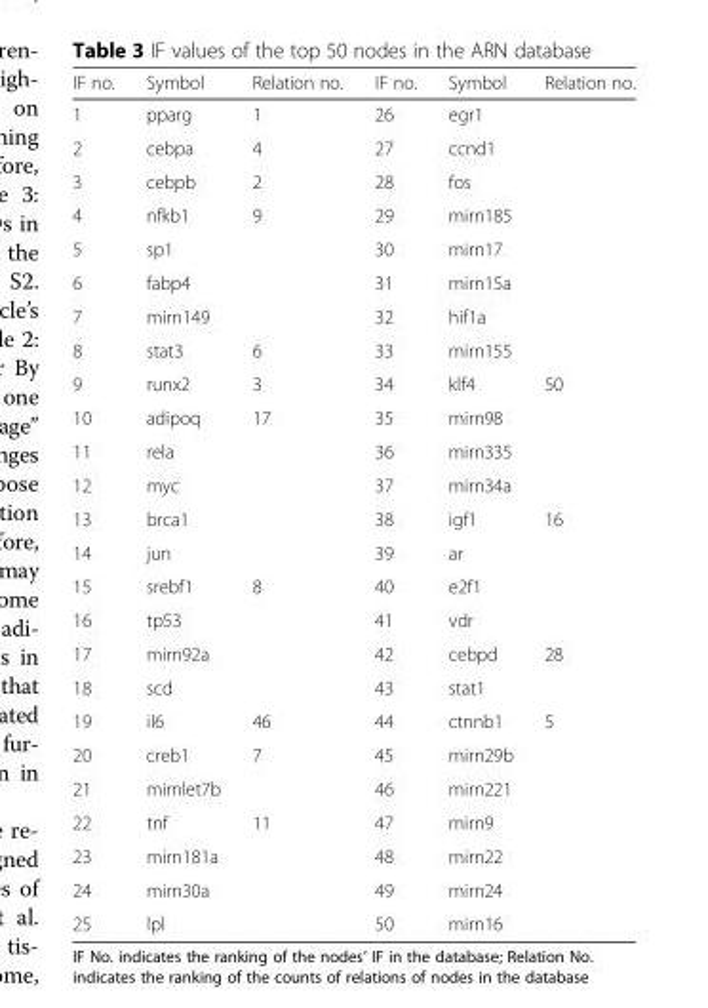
<table><thead><tr><td>IF no.</td><td>Symbol</td><td>Relation no.</td><td>IF no.</td><td>Symbol</td><td>Relation no.</td></tr></thead><tbody><tr><td>1</td><td>pparg</td><td>1</td><td>26</td><td>egr1</td><td></td></tr><tr><td>2</td><td>cebpa</td><td>4</td><td>27</td><td>ccnd1</td><td></td></tr><tr><td>3</td><td>cebpb</td><td>2</td><td>28</td><td>fos</td><td></td></tr><tr><td>4</td><td>nfkb1</td><td>9</td><td>29</td><td>mirn185</td><td></td></tr><tr><td>5</td><td>sp1</td><td></td><td>30</td><td>mirn17</td><td></td></tr><tr><td>6</td><td>fabp4</td><td></td><td>31</td><td>mirn15a</td><td></td></tr><tr><td>7</td><td>mirn149</td><td></td><td>32</td><td>hif1a</td><td></td></tr><tr><td>8</td><td>stat3</td><td>6</td><td>33</td><td>mirn155</td><td></td></tr><tr><td>9</td><td>runx2</td><td>3</td><td>34</td><td>klf4</td><td>50</td></tr><tr><td>10</td><td>adipoq</td><td>17</td><td>35</td><td>mirn98</td><td></td></tr><tr><td>11</td><td>rela</td><td></td><td>36</td><td>mirn335</td><td></td></tr><tr><td>12</td><td>myc</td><td></td><td>37</td><td>mirn34a</td><td></td></tr><tr><td>13</td><td>brca1</td><td></td><td>38</td><td>igf1</td><td>16</td></tr><tr><td>14</td><td>jun</td><td></td><td>39</td><td>ar</td><td></td></tr><tr><td>15</td><td>srebf1</td><td>8</td><td>40</td><td>e2f1</td><td></td></tr><tr><td>16</td><td>tp53</td><td></td><td>41</td><td>vdr</td><td></td></tr><tr><td>17</td><td>mirn92a</td><td></td><td>42</td><td>cebpd</td><td>28</td></tr><tr><td>18</td><td>scd</td><td></td><td>43</td><td>stat1</td><td></td></tr><tr><td>19</td><td>il6</td><td>46</td><td>44</td><td>ctnnb1</td><td>5</td></tr><tr><td>20</td><td>creb1</td><td>7</td><td>45</td><td>mirn29b</td><td></td></tr><tr><td>21</td><td>mirnlet7b</td><td></td><td>46</td><td>mirn221</td><td></td></tr><tr><td>22</td><td>tnf</td><td>11</td><td>47</td><td>mirn9</td><td></td></tr><tr><td>23</td><td>mirn181a</td><td></td><td>48</td><td>mirn22</td><td></td></tr><tr><td>24</td><td>mirn30a</td><td></td><td>49</td><td>mirn24</td><td></td></tr><tr><td>25</td><td>lpl</td><td></td><td>50</td><td>mirn16</td><td></td></tr></tbody></table>